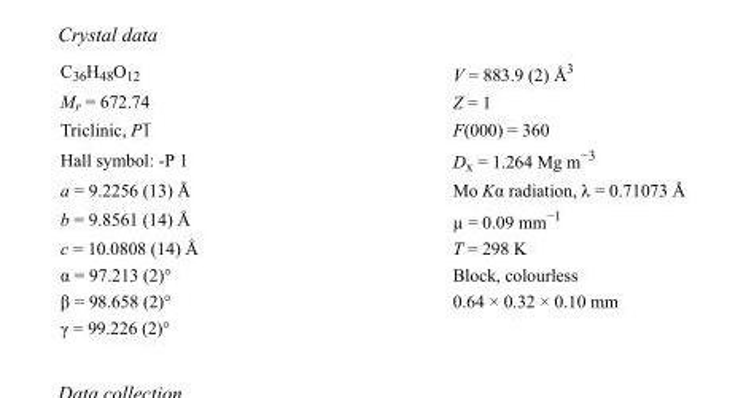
<table><tbody><tr><td>C<sub>36</sub>H<sub>48</sub>O<sub>12</sub></td><td>V = 883.9 (2) Å<sup>3</sup></td></tr><tr><td>M<sub>r</sub> = 672.74</td><td>Z = 1</td></tr><tr><td>Triclinic, P1</td><td>F(000) = 360</td></tr><tr><td>Hall symbol: -P 1</td><td>D<sub>x</sub> = 1.264 Mg m<sup>−3</sup></td></tr><tr><td>a = 9.2256 (13) Å</td><td>Mo Kα radiation, λ = 0.71073 Å</td></tr><tr><td>b = 9.8561 (14) Å</td><td>µ = 0.09 mm<sup>−1</sup></td></tr><tr><td>c = 10.0808 (14) Å</td><td>T = 298 K</td></tr><tr><td>α = 97.213 (2)°</td><td>Block, colourless</td></tr><tr><td>β = 98.658 (2)°</td><td>0.64 × 0.32 × 0.10 mm</td></tr><tr><td>γ = 99.226 (2)°</td><td></td></tr></tbody></table>